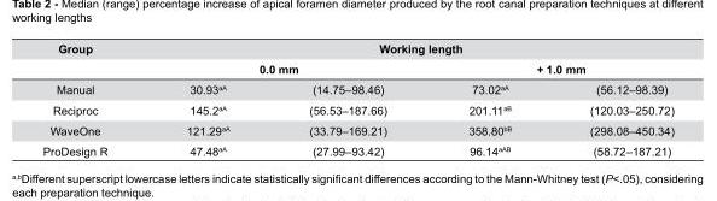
<table><thead><tr><td rowspan="3">Group Manual</td><td colspan="4">Working length</td></tr><tr><td colspan="2">0.0 mm</td><td colspan="2">+ 1.0 mm</td></tr><tr><td>30.93<sup>aA</sup></td><td>(14.75–98.46)</td><td>73.02<sup>aA</sup></td><td>(56.12–98.39)</td></tr></thead><tbody><tr><td>Reciproc</td><td>145.2<sup>aA</sup></td><td>(56.53–187.66)</td><td>201.11<sup>aB</sup></td><td>(120.03–250.72)</td></tr><tr><td>WaveOne</td><td>121.29<sup>aA</sup></td><td>(33.79–169.21)</td><td>358.80<sup>bB</sup></td><td>(298.08–450.34)</td></tr><tr><td>ProDesign R</td><td>47.48<sup>aA</sup></td><td>(27.99–93.42)</td><td>96.14<sup>aAB</sup></td><td>(58.72–187.21)</td></tr></tbody></table>